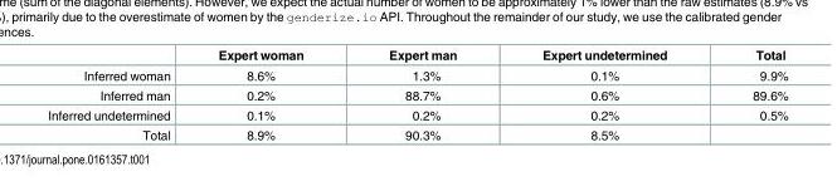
<table><thead><tr><td></td><td>Expert woman</td><td>Expert man</td><td>Expert undetermined</td><td>Total</td></tr></thead><tbody><tr><td>Inferred woman</td><td>8.6%</td><td>1.3%</td><td>0.1%</td><td>9.9%</td></tr><tr><td>Inferred man</td><td>0.2%</td><td>88.7%</td><td>0.6%</td><td>89.6%</td></tr><tr><td>Inferred undetermined</td><td>0.1%</td><td>0.2%</td><td>0.2%</td><td>0.5%</td></tr><tr><td>Total</td><td>8.9%</td><td>90.3%</td><td>8.5%</td><td></td></tr></tbody></table>